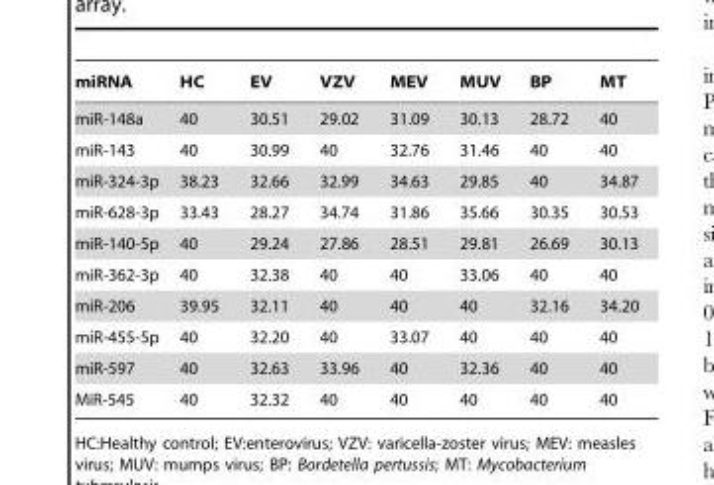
<table><thead><tr><td>miRNA</td><td>HC</td><td>EV</td><td>VZV</td><td>MEV</td><td>MUV</td><td>BP</td><td>MT</td></tr></thead><tbody><tr><td>miR-148a</td><td>40</td><td>30.51</td><td>29.02</td><td>31.09</td><td>30.13</td><td>28.72</td><td>40</td></tr><tr><td>miR-143</td><td>40</td><td>30.99</td><td>40</td><td>32.76</td><td>31.46</td><td>40</td><td>40</td></tr><tr><td>miR-324-3p</td><td>38.23</td><td>32.66</td><td>32.99</td><td>34.63</td><td>29.85</td><td>40</td><td>34.87</td></tr><tr><td>miR-628-3p</td><td>33.43</td><td>28.27</td><td>34.74</td><td>31.86</td><td>35.66</td><td>30.35</td><td>30.53</td></tr><tr><td>miR-140-5p</td><td>40</td><td>29.24</td><td>27.86</td><td>28.51</td><td>29.81</td><td>26.69</td><td>30.13</td></tr><tr><td>miR-362-3p</td><td>40</td><td>32.38</td><td>40</td><td>40</td><td>33.06</td><td>40</td><td>40</td></tr><tr><td>miR-206</td><td>39.95</td><td>32.11</td><td>40</td><td>40</td><td>40</td><td>32.16</td><td>34.20</td></tr><tr><td>miR-455-5p</td><td>40</td><td>32.20</td><td>40</td><td>33.07</td><td>40</td><td>40</td><td>40</td></tr><tr><td>miR-597</td><td>40</td><td>32.63</td><td>33.96</td><td>40</td><td>32.36</td><td>40</td><td>40</td></tr><tr><td>MiR-545</td><td>40</td><td>32.32</td><td>40</td><td>40</td><td>40</td><td>40</td><td>40</td></tr></tbody></table>